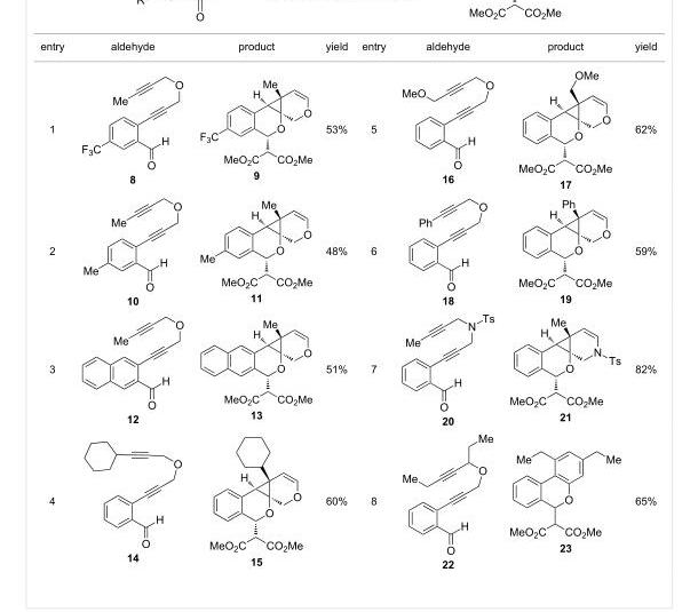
<table><tbody><tr><td>entry</td><td>aldehyde</td><td>product</td><td>yield</td><td>entry</td><td>aldehyde</td><td>product</td><td>yield</td></tr><tr><td>1</td><td>8</td><td>9</td><td>53%</td><td>5</td><td>16</td><td>17</td><td>62%</td></tr><tr><td>2</td><td>10</td><td>11</td><td>48%</td><td>6</td><td>18</td><td>19</td><td>59%</td></tr><tr><td>3</td><td>12</td><td>13</td><td>51%</td><td>7</td><td>20</td><td>21</td><td>82%</td></tr><tr><td>4</td><td>14</td><td>15</td><td>60%</td><td>8</td><td>22</td><td>23</td><td>65%</td></tr></tbody></table>